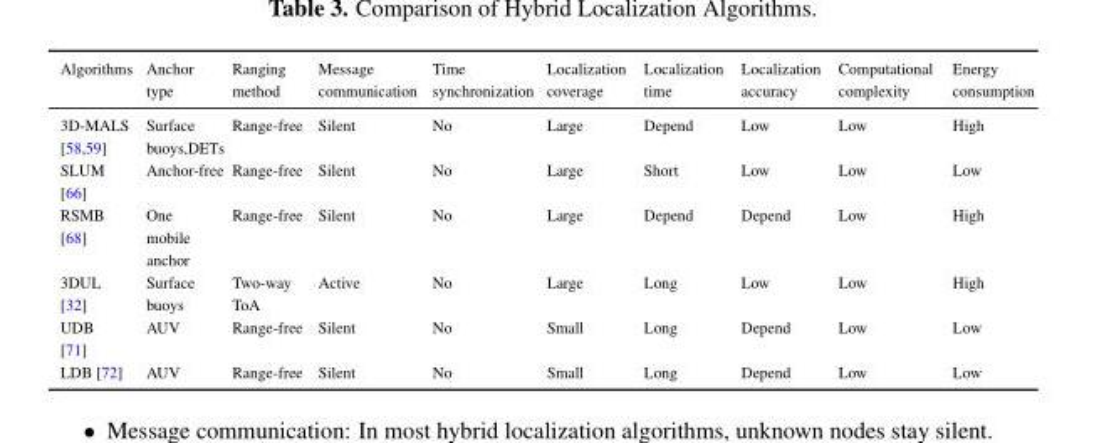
<table><thead><tr><td>Algorithms</td><td>Anchor type</td><td>Ranging method</td><td>Message communication</td><td>Time synchronization</td><td>Localization coverage</td><td>Localization time</td><td>Localization accuracy</td><td>Computational complexity</td><td>Energy consumption</td></tr></thead><tbody><tr><td>3D-MALS [58,59]</td><td>Surface buoys,DETs</td><td>Range-free</td><td>Silent</td><td>No</td><td>Large</td><td>Depend</td><td>Low</td><td>Low</td><td>High</td></tr><tr><td>SLUM [66]</td><td>Anchor-free</td><td>Range-free</td><td>Silent</td><td>No</td><td>Large</td><td>Short</td><td>Low</td><td>Low</td><td>Low</td></tr><tr><td>RSMB [68]</td><td>One mobile anchor</td><td>Range-free</td><td>Silent</td><td>No</td><td>Large</td><td>Depend</td><td>Depend</td><td>Low</td><td>High</td></tr><tr><td>3DUL [32]</td><td>Surface buoys</td><td>Two-way ToA</td><td>Active</td><td>No</td><td>Large</td><td>Long</td><td>Low</td><td>Low</td><td>High</td></tr><tr><td>UDB [71]</td><td>AUV</td><td>Range-free</td><td>Silent</td><td>No</td><td>Small</td><td>Long</td><td>Depend</td><td>Low</td><td>Low</td></tr><tr><td>LDB [72]</td><td>AUV</td><td>Range-free</td><td>Silent</td><td>No</td><td>Small</td><td>Long</td><td>Depend</td><td>Low</td><td>Low</td></tr></tbody></table>